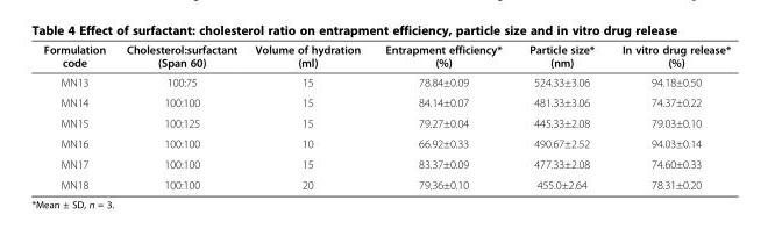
<table><thead><tr><td>Formulation code</td><td>Cholesterol:surfactant (Span 60)</td><td>Volume of hydration (ml)</td><td>Entrapment efficiency* (%)</td><td>Particle size* (nm)</td><td>In vitro drug release* (%)</td></tr></thead><tbody><tr><td>MN13</td><td>100:75</td><td>15</td><td>78.84±0.09</td><td>524.33±3.06</td><td>94.18±0.50</td></tr><tr><td>MN14</td><td>100:100</td><td>15</td><td>84.14±0.07</td><td>481.33±3.06</td><td>74.37±0.22</td></tr><tr><td>MN15</td><td>100:125</td><td>15</td><td>79.27±0.04</td><td>445.33±2.08</td><td>79.03±0.10</td></tr><tr><td>MN16</td><td>100:100</td><td>10</td><td>66.92±0.33</td><td>490.67±2.52</td><td>94.03±0.14</td></tr><tr><td>MN17</td><td>100:100</td><td>15</td><td>83.37±0.09</td><td>477.33±2.08</td><td>74.60±0.33</td></tr><tr><td>MN18</td><td>100:100</td><td>20</td><td>79.36±0.10</td><td>455.0±2.64</td><td>78.31±0.20</td></tr></tbody></table>